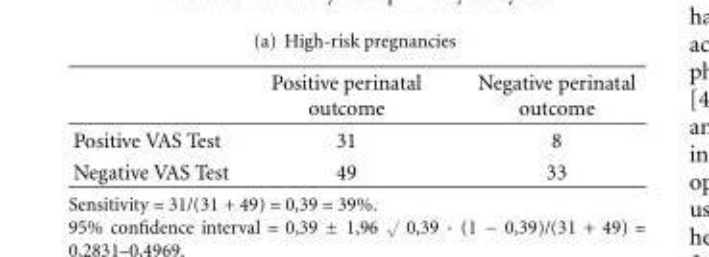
<table><thead><tr><td></td><td>Positive perinatal outcome</td><td>Negative perinatal outcome</td></tr></thead><tbody><tr><td>Positive VAS Test</td><td>31</td><td>8</td></tr><tr><td>Negative VAS Test</td><td>49</td><td>33</td></tr></tbody></table>